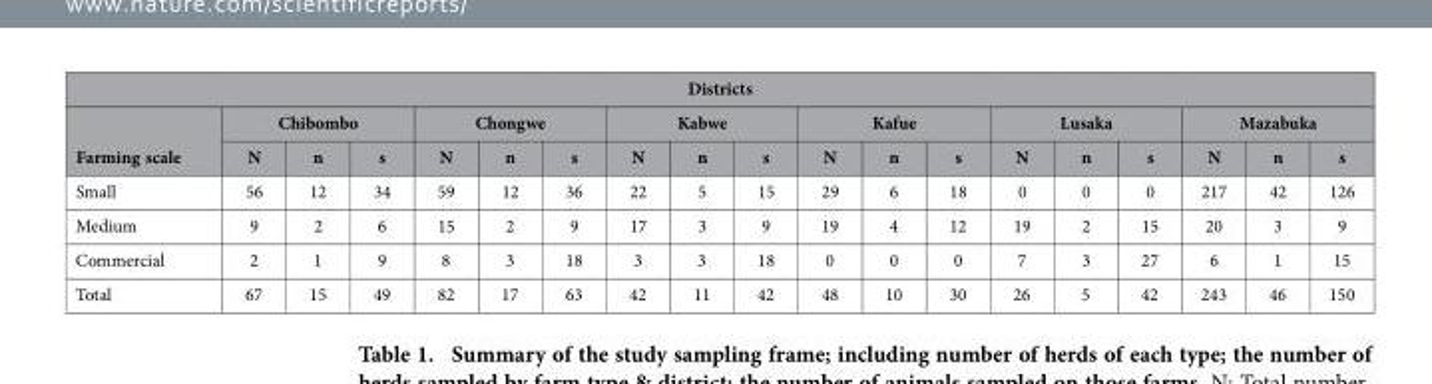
<table><thead><tr><td colspan="19">Districts</td></tr><tr><td rowspan="2">Farming scale</td><td colspan="3">Chibombo</td><td colspan="3">Chongwe</td><td colspan="3">Kabwe</td><td colspan="3">Kafue</td><td colspan="3">Lusaka</td><td colspan="3">Mazabuka</td></tr><tr><td>N</td><td>n</td><td>s</td><td>N</td><td>n</td><td>s</td><td>N</td><td>n</td><td>s</td><td>N</td><td>n</td><td>s</td><td>N</td><td>n</td><td>s</td><td>N</td><td>n</td><td>s</td></tr></thead><tbody><tr><td>Small</td><td>56</td><td>12</td><td>34</td><td>59</td><td>12</td><td>36</td><td>22</td><td>5</td><td>15</td><td>29</td><td>6</td><td>18</td><td>0</td><td>0</td><td>0</td><td>217</td><td>42</td><td>126</td></tr><tr><td>Medium</td><td>9</td><td>2</td><td>6</td><td>15</td><td>2</td><td>9</td><td>17</td><td>3</td><td>9</td><td>19</td><td>4</td><td>12</td><td>19</td><td>2</td><td>15</td><td>20</td><td>3</td><td>9</td></tr><tr><td>Commercial</td><td>2</td><td>1</td><td>9</td><td>8</td><td>3</td><td>18</td><td>3</td><td>3</td><td>18</td><td>0</td><td>0</td><td>0</td><td>7</td><td>3</td><td>27</td><td>6</td><td>1</td><td>15</td></tr><tr><td>Total</td><td>67</td><td>15</td><td>49</td><td>82</td><td>17</td><td>63</td><td>42</td><td>11</td><td>42</td><td>48</td><td>10</td><td>30</td><td>26</td><td>5</td><td>42</td><td>243</td><td>46</td><td>150</td></tr></tbody></table>